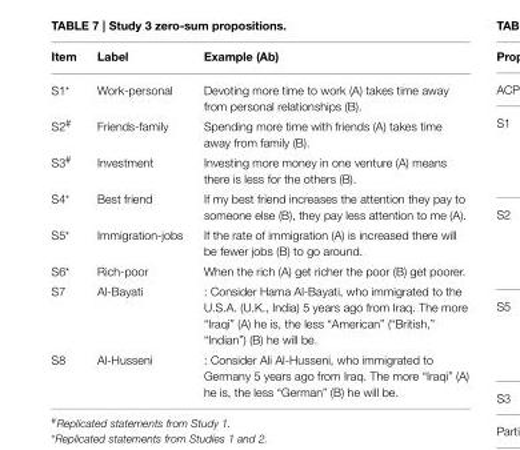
<table><thead><tr><td>Item</td><td>Label</td><td>Example (Ab)</td></tr></thead><tbody><tr><td>S1*</td><td>Work-personal</td><td>Devoting more time to work (A) takes time away from personal relationships (B).</td></tr><tr><td>S2<sup>#</sup></td><td>Friends-family</td><td>Spending more time with friends (A) takes time away from family (B).</td></tr><tr><td>S3<sup>#</sup></td><td>Investment</td><td>Investing more money in one venture (A) means there is less for the others (B).</td></tr><tr><td>S4*</td><td>Best friend</td><td>If my best friend increases the attention they pay to someone else (B), they pay less attention to me (A).</td></tr><tr><td>S5*</td><td>Immigration-jobs</td><td>If the rate of immigration (A) is increased there will be fewer jobs (B) to go around.</td></tr><tr><td>S6*</td><td>Rich-poor</td><td>When the rich (A) get richer the poor (B) get poorer.</td></tr><tr><td>S7</td><td>Al-Bayati</td><td>: Consider Hama Al-Bayati, who immigrated to the U.S.A. (U.K., India) 5 years ago from Iraq. The more “Iraqi” (A) he is, the less “American” (“British,” “Indian”) (B) he will be.</td></tr><tr><td>S8</td><td>Al-Husseni</td><td>: Consider Ali Al-Husseni, who immigrated to Germany 5 years ago from Iraq. The more “Iraqi” (A) he is, the less “German” (B) he will be.</td></tr></tbody></table>